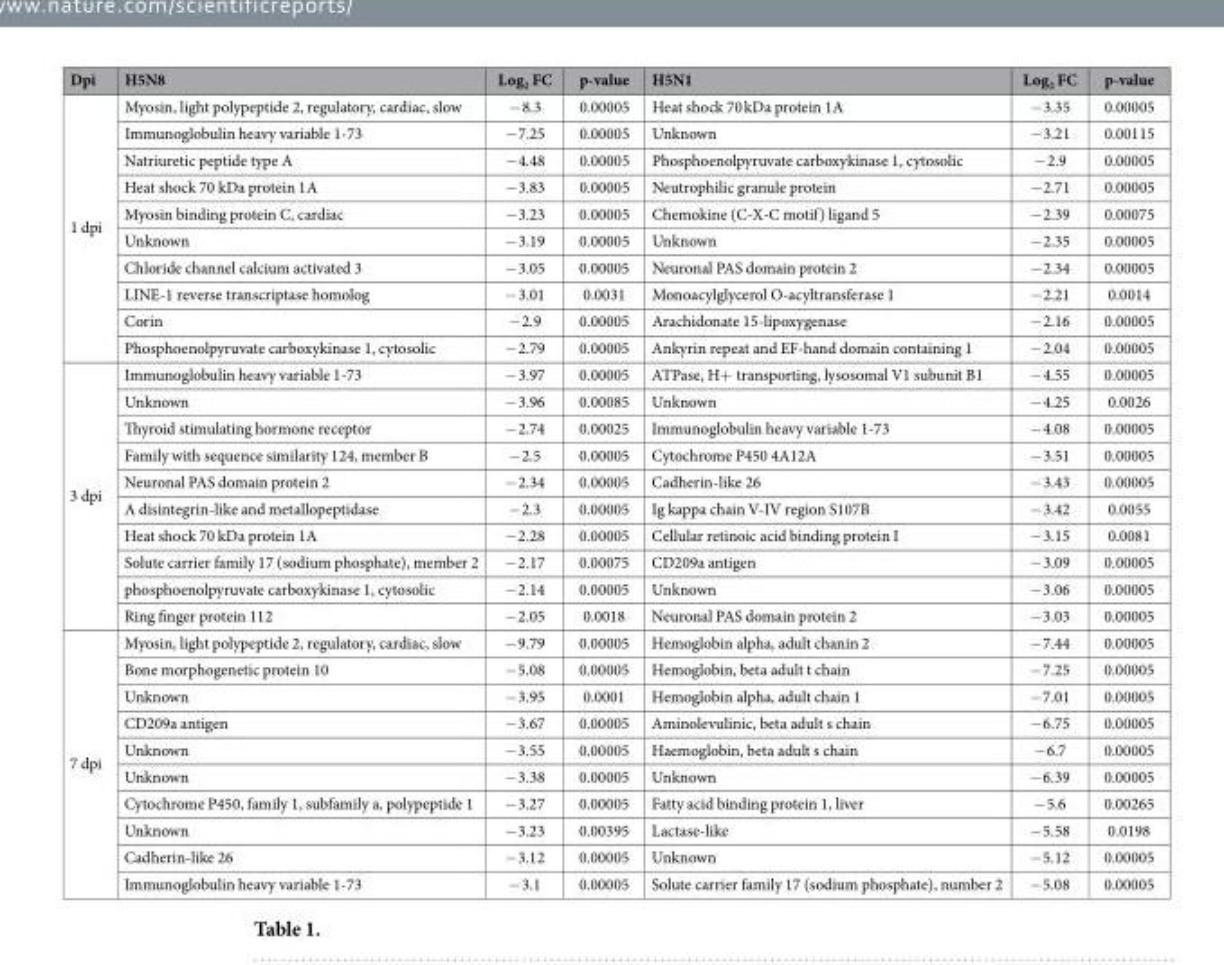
<table><thead><tr><td>Dpi</td><td>H5N8</td><td>Log<sub>2</sub> FC</td><td>p-value</td><td>H5N1</td><td>Log<sub>2</sub> FC</td><td>p-value</td></tr></thead><tbody><tr><td rowspan="10">1 dpi</td><td>Myosin, light polypeptide 2, regulatory, cardiac, slow</td><td>− 8.3</td><td>0.00005</td><td>Heat shock 70 kDa protein 1A</td><td>− 3.35</td><td>0.00005</td></tr><tr><td>Immunoglobulin heavy variable 1-73</td><td>− 7.25</td><td>0.00005</td><td>Unknown</td><td>− 3.21</td><td>0.00115</td></tr><tr><td>Natriuretic peptide type A</td><td>− 4.48</td><td>0.00005</td><td>Phosphoenolpyruvate carboxykinase 1, cytosolic</td><td>− 2.9</td><td>0.00005</td></tr><tr><td>Heat shock 70 kDa protein 1A</td><td>− 3.83</td><td>0.00005</td><td>Neutrophilic granule protein</td><td>− 2.71</td><td>0.00005</td></tr><tr><td>Myosin binding protein C, cardiac</td><td>− 3.23</td><td>0.00005</td><td>Chemokine (C-X-C motif) ligand 5</td><td>− 2.39</td><td>0.00075</td></tr><tr><td>Unknown</td><td>− 3.19</td><td>0.00005</td><td>Unknown</td><td>− 2.35</td><td>0.00005</td></tr><tr><td>Chloride channel calcium activated 3</td><td>− 3.05</td><td>0.00005</td><td>Neuronal PAS domain protein 2</td><td>− 2.34</td><td>0.00005</td></tr><tr><td>LINE-1 reverse transcriptase homolog</td><td>− 3.01</td><td>0.0031</td><td>Monoacylglycerol O-acyltransferase 1</td><td>− 2.21</td><td>0.0014</td></tr><tr><td>Corin</td><td>− 2.9</td><td>0.00005</td><td>Arachidonate 15-lipoxygenase</td><td>− 2.16</td><td>0.00005</td></tr><tr><td>Phosphoenolpyruvate carboxykinase 1, cytosolic</td><td>− 2.79</td><td>0.00005</td><td>Ankyrin repeat and EF-hand domain containing 1</td><td>− 2.04</td><td>0.00005</td></tr><tr><td rowspan="10">3 dpi</td><td>Immunoglobulin heavy variable 1-73</td><td>− 3.97</td><td>0.00005</td><td>ATPase, H+ transporting, lysosomal V1 subunit B1</td><td>− 4.55</td><td>0.00005</td></tr><tr><td>Unknown</td><td>− 3.96</td><td>0.00085</td><td>Unknown</td><td>− 4.25</td><td>0.0026</td></tr><tr><td>Thyroid stimulating hormone receptor</td><td>− 2.74</td><td>0.00025</td><td>Immunoglobulin heavy variable 1-73</td><td>− 4.08</td><td>0.00005</td></tr><tr><td>Family with sequence similarity 124, member B</td><td>− 2.5</td><td>0.00005</td><td>Cytochrome P450 4A12A</td><td>− 3.51</td><td>0.00005</td></tr><tr><td>Neuronal PAS domain protein 2</td><td>− 2.34</td><td>0.00005</td><td>Cadherin-like 26</td><td>− 3.43</td><td>0.00005</td></tr><tr><td>A disintegrin-like and metallopeptidase</td><td>− 2.3</td><td>0.00005</td><td>Ig kappa chain V-IV region S107B</td><td>− 3.42</td><td>0.0055</td></tr><tr><td>Heat shock 70 kDa protein 1A</td><td>− 2.28</td><td>0.00005</td><td>Cellular retinoic acid binding protein I</td><td>− 3.15</td><td>0.0081</td></tr><tr><td>Solute carrier family 17 (sodium phosphate), member 2</td><td>− 2.17</td><td>0.00075</td><td>CD209a antigen</td><td>− 3.09</td><td>0.00005</td></tr><tr><td>phosphoenolpyruvate carboxykinase 1, cytosolic</td><td>− 2.14</td><td>0.00005</td><td>Unknown</td><td>− 3.06</td><td>0.00005</td></tr><tr><td>Ring finger protein 112</td><td>− 2.05</td><td>0.0018</td><td>Neuronal PAS domain protein 2</td><td>− 3.03</td><td>0.00005</td></tr><tr><td rowspan="10">7 dpi</td><td>Myosin, light polypeptide 2, regulatory, cardiac, slow</td><td>− 9.79</td><td>0.00005</td><td>Hemoglobin alpha, adult chanin 2</td><td>− 7.44</td><td>0.00005</td></tr><tr><td>Bone morphogenetic protein 10</td><td>− 5.08</td><td>0.00005</td><td>Hemoglobin, beta adult t chain</td><td>− 7.25</td><td>0.00005</td></tr><tr><td>Unknown</td><td>− 3.95</td><td>0.0001</td><td>Hemoglobin alpha, adult chain 1</td><td>− 7.01</td><td>0.00005</td></tr><tr><td>CD209a antigen</td><td>− 3.67</td><td>0.00005</td><td>Aminolevulinic, beta adult s chain</td><td>− 6.75</td><td>0.00005</td></tr><tr><td>Unknown</td><td>− 3.55</td><td>0.00005</td><td>Haemoglobin, beta adult s chain</td><td>− 6.7</td><td>0.00005</td></tr><tr><td>Unknown</td><td>− 3.38</td><td>0.00005</td><td>Unknown</td><td>− 6.39</td><td>0.00005</td></tr><tr><td>Cytochrome P450, family 1, subfamily a, polypeptide 1</td><td>− 3.27</td><td>0.00005</td><td>Fatty acid binding protein 1, liver</td><td>− 5.6</td><td>0.00265</td></tr><tr><td>Unknown</td><td>− 3.23</td><td>0.00395</td><td>Lactase-like</td><td>− 5.58</td><td>0.0198</td></tr><tr><td>Cadherin-like 26</td><td>− 3.12</td><td>0.00005</td><td>Unknown</td><td>− 5.12</td><td>0.00005</td></tr><tr><td>Immunoglobulin heavy variable 1-73</td><td>− 3.1</td><td>0.00005</td><td>Solute carrier family 17 (sodium phosphate), number 2</td><td>− 5.08</td><td>0.00005</td></tr></tbody></table>